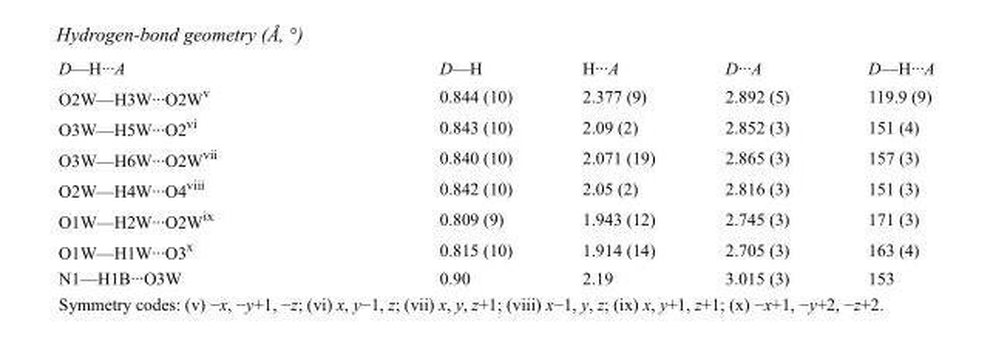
<table><tbody><tr><td>D—H···A</td><td>D—H</td><td>H···A</td><td>D···A</td><td>D—H···A</td></tr><tr><td>O2W—H3W···O2W<sup>v</sup></td><td>0.844 (10)</td><td>2.377 (9)</td><td>2.892 (5)</td><td>119.9 (9)</td></tr><tr><td>O3W—H5W···O2<sup>vi</sup></td><td>0.843 (10)</td><td>2.09 (2)</td><td>2.852 (3)</td><td>151 (4)</td></tr><tr><td>O3W—H6W···O2W<sup>vii</sup></td><td>0.840 (10)</td><td>2.071 (19)</td><td>2.865 (3)</td><td>157 (3)</td></tr><tr><td>O2W—H4W···O4<sup>viii</sup></td><td>0.842 (10)</td><td>2.05 (2)</td><td>2.816 (3)</td><td>151 (3)</td></tr><tr><td>O1W—H2W···O2W<sup>ix</sup></td><td>0.809 (9)</td><td>1.943 (12)</td><td>2.745 (3)</td><td>171 (3)</td></tr><tr><td>O1W—H1W···O3<sup>x</sup></td><td>0.815 (10)</td><td>1.914 (14)</td><td>2.705 (3)</td><td>163 (4)</td></tr><tr><td>N1—H1B···O3W</td><td>0.90</td><td>2.19</td><td>3.015 (3)</td><td>153</td></tr></tbody></table>